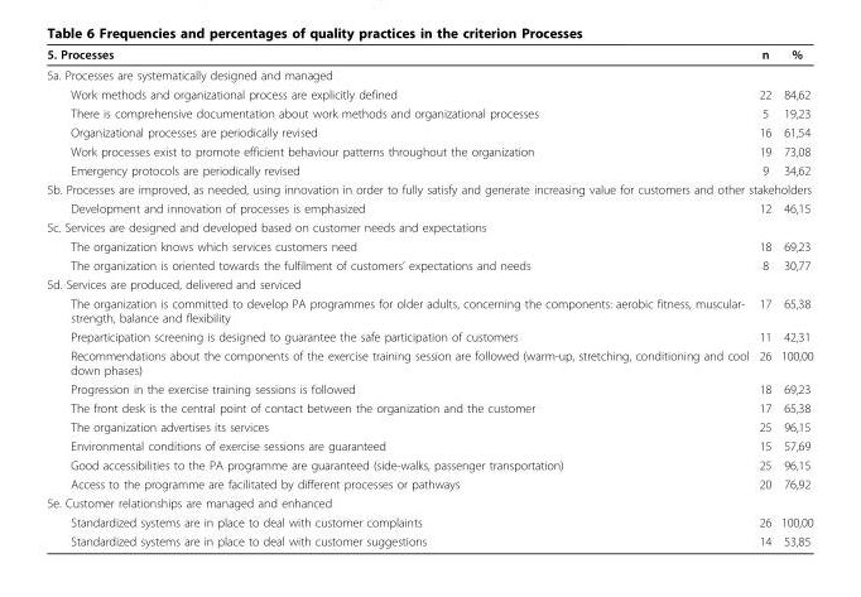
<table><thead><tr><td>5. Processes</td><td>n</td><td>%</td></tr></thead><tbody><tr><td colspan="3">5a. Processes are systematically designed and managed</td></tr><tr><td>Work methods and organizational process are explicitly defined</td><td>22</td><td>84,62</td></tr><tr><td>There is comprehensive documentation about work methods and organizational processes</td><td>5</td><td>19,23</td></tr><tr><td>Organizational processes are periodically revised</td><td>16</td><td>61,54</td></tr><tr><td>Work processes exist to promote efficient behaviour patterns throughout the organization</td><td>19</td><td>73,08</td></tr><tr><td>Emergency protocols are periodically revised</td><td>9</td><td>34,62</td></tr><tr><td colspan="3">5b. Processes are improved, as needed, using innovation in order to fully satisfy and generate increasing value for customers and other stakeholders</td></tr><tr><td>Development and innovation of processes is emphasized</td><td>12</td><td>46,15</td></tr><tr><td colspan="3">5c. Services are designed and developed based on customer needs and expectations</td></tr><tr><td>The organization knows which services customers need</td><td>18</td><td>69,23</td></tr><tr><td>The organization is oriented towards the fulfilment of customers’ expectations and needs</td><td>8</td><td>30,77</td></tr><tr><td colspan="3">5d. Services are produced, delivered and serviced</td></tr><tr><td>The organization is committed to develop PA programmes for older adults, concerning the components: aerobic fitness, muscular- strength, balance and flexibility</td><td>17</td><td>65,38</td></tr><tr><td>Preparticipation screening is designed to guarantee the safe participation of customers</td><td>11</td><td>42,31</td></tr><tr><td>Recommendations about the components of the exercise training session are followed (warm-up, stretching, conditioning and cool down phases)</td><td>26</td><td>100,00</td></tr><tr><td>Progression in the exercise training sessions is followed</td><td>18</td><td>69,23</td></tr><tr><td>The front desk is the central point of contact between the organization and the customer</td><td>17</td><td>65,38</td></tr><tr><td>The organization advertises its services</td><td>25</td><td>96,15</td></tr><tr><td>Environmental conditions of exercise sessions are guaranteed</td><td>15</td><td>57,69</td></tr><tr><td>Good accessibilities to the PA programme are guaranteed (side-walks, passenger transportation)</td><td>25</td><td>96,15</td></tr><tr><td>Access to the programme are facilitated by different processes or pathways</td><td>20</td><td>76,92</td></tr><tr><td colspan="3">5e. Customer relationships are managed and enhanced</td></tr><tr><td>Standardized systems are in place to deal with customer complaints</td><td>26</td><td>100,00</td></tr><tr><td>Standardized systems are in place to deal with customer suggestions</td><td>14</td><td>53,85</td></tr></tbody></table>